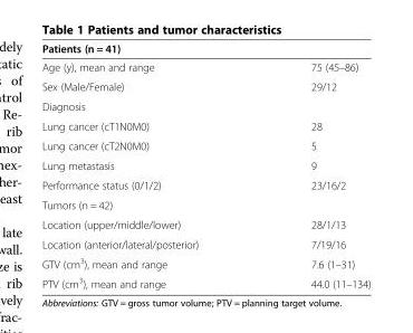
<table><thead><tr><td>Patients (n = 41)</td><td></td></tr></thead><tbody><tr><td>Age (y), mean and range</td><td>75 (45–86)</td></tr><tr><td>Sex (Male/Female)</td><td>29/12</td></tr><tr><td colspan="2">Diagnosis</td></tr><tr><td>Lung cancer (cT1N0M0)</td><td>28</td></tr><tr><td>Lung cancer (cT2N0M0)</td><td>5</td></tr><tr><td>Lung metastasis</td><td>9</td></tr><tr><td>Performance status (0/1/2)</td><td>23/16/2</td></tr><tr><td colspan="2">Tumors (n = 42)</td></tr><tr><td>Location (upper/middle/lower)</td><td>28/1/13</td></tr><tr><td>Location (anterior/lateral/posterior)</td><td>7/19/16</td></tr><tr><td>GTV (cm<sup>3</sup>), mean and range</td><td>7.6 (1–31)</td></tr><tr><td>PTV (cm<sup>3</sup>), mean and range</td><td>44.0 (11–134)</td></tr></tbody></table>